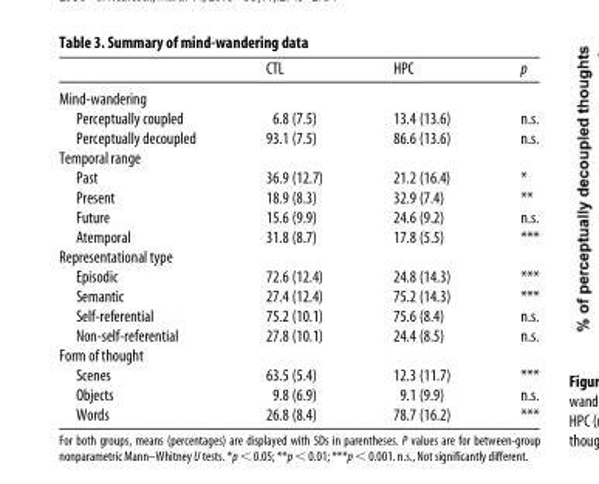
<table><thead><tr><td></td><td>CTL</td><td>HPC</td><td>p</td></tr></thead><tbody><tr><td colspan="4">Mind-wandering</td></tr><tr><td>Perceptually coupled</td><td>6.8 (7.5)</td><td>13.4 (13.6)</td><td>n.s.</td></tr><tr><td>Perceptually decoupled</td><td>93.1 (7.5)</td><td>86.6 (13.6)</td><td>n.s.</td></tr><tr><td colspan="4">Temporal range</td></tr><tr><td>Past</td><td>36.9 (12.7)</td><td>21.2 (16.4)</td><td>*</td></tr><tr><td>Present</td><td>18.9 (8.3)</td><td>32.9 (7.4)</td><td>**</td></tr><tr><td>Future</td><td>15.6 (9.9)</td><td>24.6 (9.2)</td><td>n.s.</td></tr><tr><td>Atemporal</td><td>31.8 (8.7)</td><td>17.8 (5.5)</td><td>***</td></tr><tr><td colspan="4">Representational type</td></tr><tr><td>Episodic</td><td>72.6 (12.4)</td><td>24.8 (14.3)</td><td>***</td></tr><tr><td>Semantic</td><td>27.4 (12.4)</td><td>75.2 (14.3)</td><td>***</td></tr><tr><td>Self-referential</td><td>75.2 (10.1)</td><td>75.6 (8.4)</td><td>n.s.</td></tr><tr><td>Non-self-referential</td><td>27.8 (10.1)</td><td>24.4 (8.5)</td><td>n.s.</td></tr><tr><td colspan="4">Form of thought</td></tr><tr><td>Scenes</td><td>63.5 (5.4)</td><td>12.3 (11.7)</td><td>***</td></tr><tr><td>Objects</td><td>9.8 (6.9)</td><td>9.1 (9.9)</td><td>n.s.</td></tr><tr><td>Words</td><td>26.8 (8.4)</td><td>78.7 (16.2)</td><td>***</td></tr></tbody></table>